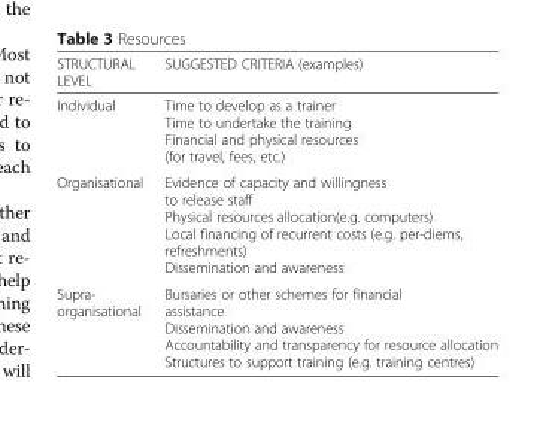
<table><thead><tr><td>STRUCTURAL LEVEL</td><td>SUGGESTED CRITERIA (examples)</td></tr></thead><tbody><tr><td>Individual</td><td>Time to develop as a trainer Time to undertake the training Financial and physical resources (for travel, fees, etc.)</td></tr><tr><td>Organisational</td><td>Evidence of capacity and willingness to release staff Physical resources allocation(e.g. computers) Local financing of recurrent costs (e.g. per-diems, refreshments) Dissemination and awareness</td></tr><tr><td>Supra- organisational</td><td>Bursaries or other schemes for financial assistance Dissemination and awareness Accountability and transparency for resource allocation Structures to support training (e.g. training centres)</td></tr></tbody></table>